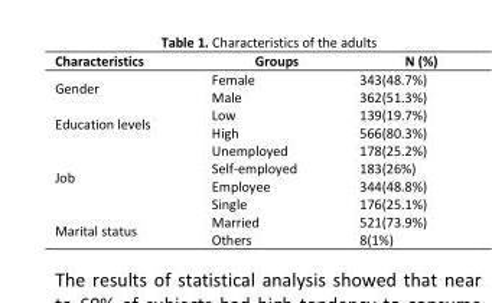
<table><thead><tr><td>Characteristics</td><td>Groups</td><td>N (%)</td></tr></thead><tbody><tr><td rowspan="2">Gender</td><td>Female</td><td>343(48.7%)</td></tr><tr><td>Male</td><td>362(51.3%)</td></tr><tr><td rowspan="2">Education levels</td><td>Low</td><td>139(19.7%)</td></tr><tr><td>High</td><td>566(80.3%)</td></tr><tr><td rowspan="3">Job</td><td>Unemployed</td><td>178(25.2%)</td></tr><tr><td>Self-employed</td><td>183(26%)</td></tr><tr><td>Employee</td><td>344(48.8%)</td></tr><tr><td rowspan="3">Marital status</td><td>Single</td><td>176(25.1%)</td></tr><tr><td>Married</td><td>521(73.9%)</td></tr><tr><td>Others</td><td>8(1%)</td></tr></tbody></table>